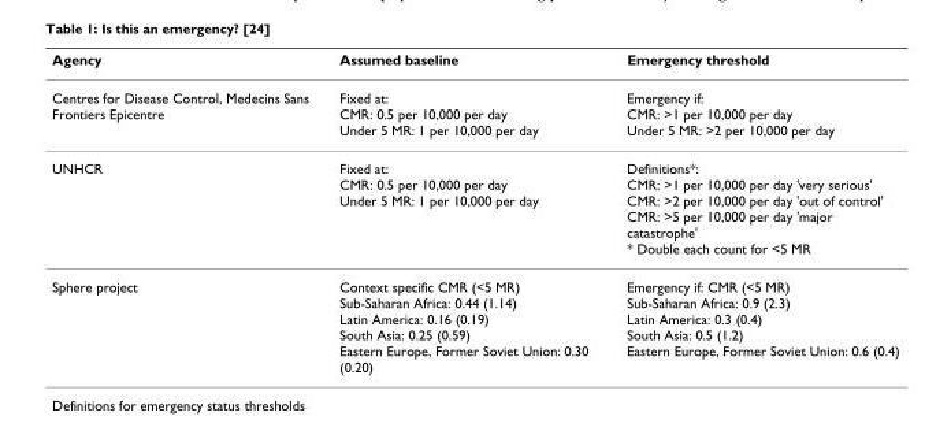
<table><thead><tr><td>Agency</td><td>Assumed baseline</td><td>Emergency threshold</td></tr></thead><tbody><tr><td>Centres for Disease Control, Medecins Sans Frontiers Epicentre</td><td>Fixed at: CMR: 0.5 per 10,000 per day Under 5 MR: 1 per 10,000 per day</td><td>Emergency if: CMR: &gt;1 per 10,000 per day Under 5 MR: &gt;2 per 10,000 per day</td></tr><tr><td>UNHCR</td><td>Fixed at: CMR: 0.5 per 10,000 per day Under 5 MR: 1 per 10,000 per day</td><td>Definitions*: CMR: &gt;1 per 10,000 per day &#x27;very serious&#x27; CMR: &gt;2 per 10,000 per day &#x27;out of control&#x27; CMR: &gt;5 per 10,000 per day &#x27;major catastrophe&#x27; * Double each count for &lt;5 MR</td></tr><tr><td>Sphere project</td><td>Context specific CMR (&lt;5 MR) Sub-Saharan Africa: 0.44 (1.14) Latin America: 0.16 (0.19) South Asia: 0.25 (0.59) Eastern Europe, Former Soviet Union: 0.30 (0.20)</td><td>Emergency if: CMR (&lt;5 MR) Sub-Saharan Africa: 0.9 (2.3) Latin America: 0.3 (0.4) South Asia: 0.5 (1.2) Eastern Europe, Former Soviet Union: 0.6 (0.4)</td></tr></tbody></table>